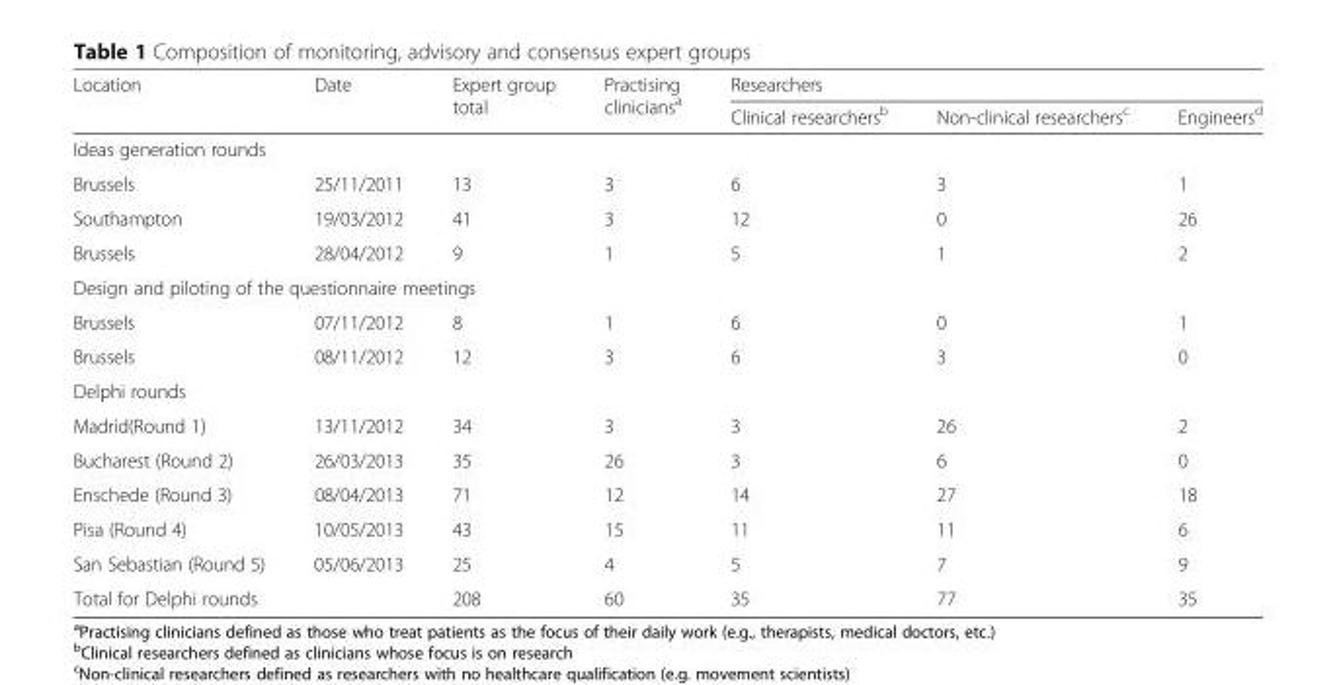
<table><thead><tr><td rowspan="2">Location</td><td rowspan="2">Date</td><td rowspan="2">Expert group total</td><td rowspan="2">Practising clinicians<sup>a</sup></td><td colspan="3">Researchers</td></tr><tr><td>Clinical researchers<sup>b</sup></td><td>Non-clinical researchers<sup>c</sup></td><td>Engineers<sup>d</sup></td></tr></thead><tbody><tr><td colspan="7">Ideas generation rounds</td></tr><tr><td>Brussels</td><td>25/11/2011</td><td>13</td><td>3</td><td>6</td><td>3</td><td>1</td></tr><tr><td>Southampton</td><td>19/03/2012</td><td>41</td><td>3</td><td>12</td><td>0</td><td>26</td></tr><tr><td>Brussels</td><td>28/04/2012</td><td>9</td><td>1</td><td>5</td><td>1</td><td>2</td></tr><tr><td colspan="7">Design and piloting of the questionnaire meetings</td></tr><tr><td>Brussels</td><td>07/11/2012</td><td>8</td><td>1</td><td>6</td><td>0</td><td>1</td></tr><tr><td>Brussels</td><td>08/11/2012</td><td>12</td><td>3</td><td>6</td><td>3</td><td>0</td></tr><tr><td colspan="7">Delphi rounds</td></tr><tr><td>Madrid(Round 1)</td><td>13/11/2012</td><td>34</td><td>3</td><td>3</td><td>26</td><td>2</td></tr><tr><td>Bucharest (Round 2)</td><td>26/03/2013</td><td>35</td><td>26</td><td>3</td><td>6</td><td>0</td></tr><tr><td>Enschede (Round 3)</td><td>08/04/2013</td><td>71</td><td>12</td><td>14</td><td>27</td><td>18</td></tr><tr><td>Pisa (Round 4)</td><td>10/05/2013</td><td>43</td><td>15</td><td>11</td><td>11</td><td>6</td></tr><tr><td>San Sebastian (Round 5)</td><td>05/06/2013</td><td>25</td><td>4</td><td>5</td><td>7</td><td>9</td></tr><tr><td>Total for Delphi rounds</td><td></td><td>208</td><td>60</td><td>35</td><td>77</td><td>35</td></tr></tbody></table>